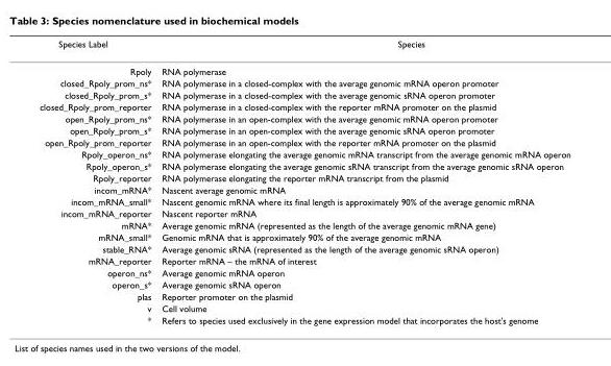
<table><thead><tr><td>Species Label</td><td>Species</td></tr></thead><tbody><tr><td>Rpoly</td><td>RNA polymerase</td></tr><tr><td>closed_Rpoly_prom_ns*</td><td>RNA polymerase in a closed-complex with the average genomic mRNA operon promoter</td></tr><tr><td>closed_Rpoly_prom_s*</td><td>RNA polymerase in a closed-complex with the average genomic sRNA operon promoter</td></tr><tr><td>closed_Rpoly_prom_reporter</td><td>RNA polymerase in a closed-complex with the reporter mRNA promoter on the plasmid</td></tr><tr><td>open_Rpoly_prom_ns*</td><td>RNA polymerase in an open-complex with the average genomic mRNA operon promoter</td></tr><tr><td>open_Rpoly_prom_s*</td><td>RNA polymerase in an open-complex with the average genomic sRNA operon promoter</td></tr><tr><td>open_Rpoly_prom_reporter</td><td>RNA polymerase in an open-complex with the reporter mRNA promoter on the plasmid</td></tr><tr><td>Rpoly_operon_ns*</td><td>RNA polymerase elongating the average genomic mRNA transcript from the average genomic mRNA operon</td></tr><tr><td>Rpoly_operon_s*</td><td>RNA polymerase elongating the average genomic sRNA transcript from the average genomic sRNA operon</td></tr><tr><td>Rpoly_reporter</td><td>RNA polymerase elongating the reporter mRNA transcript from the plasmid</td></tr><tr><td>incom_mRNA*</td><td>Nascent average genomic mRNA</td></tr><tr><td>incom_mRNA_small*</td><td>Nascent genomic mRNA where its final length is approximately 90% of the average genomic mRNA</td></tr><tr><td>incom_mRNA_reporter</td><td>Nascent reporter mRNA</td></tr><tr><td>mRNA*</td><td>Average genomic mRNA (represented as the length of the average genomic mRNA gene)</td></tr><tr><td>mRNA_small*</td><td>Genomic mRNA that is approximately 90% of the average genomic mRNA</td></tr><tr><td>stable_RNA*</td><td>Average genomic sRNA (represented as the length of the average genomic sRNA operon)</td></tr><tr><td>mRNA_reporter</td><td>Reporter mRNA – the mRNA of interest</td></tr><tr><td>operon_ns*</td><td>Average genomic mRNA operon</td></tr><tr><td>operon_s*</td><td>Average genomic sRNA operon</td></tr><tr><td>plas</td><td>Reporter promoter on the plasmid</td></tr><tr><td>v</td><td>Cell volume</td></tr><tr><td>*</td><td>Refers to species used exclusively in the gene expression model that incorporates the host&#x27;s genome</td></tr></tbody></table>